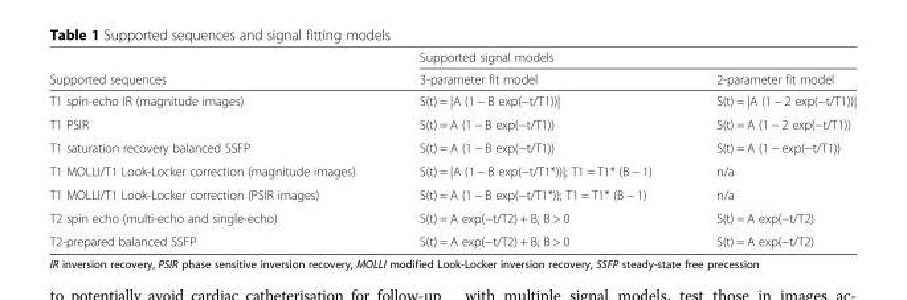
<table><thead><tr><td rowspan="2">Supported sequences</td><td colspan="2">Supported signal models</td></tr><tr><td>3-parameter fit model</td><td>2-parameter fit model</td></tr></thead><tbody><tr><td>T1 spin-echo IR (magnitude images)</td><td>S(t) = |A (1 − B exp(−t/T1))|</td><td>S(t) = |A (1 − 2 exp(−t/T1))|</td></tr><tr><td>T1 PSIR</td><td>S(t) = A (1 − B exp(−t/T1))</td><td>S(t) = A (1 − 2 exp(−t/T1))</td></tr><tr><td>T1 saturation recovery balanced SSFP</td><td>S(t) = A (1 − B exp(−t/T1))</td><td>S(t) = A (1 − exp(−t/T1))</td></tr><tr><td>T1 MOLLI/T1 Look-Locker correction (magnitude images)</td><td>S(t) = |A (1 − B exp(−t/T1*))|; T1 = T1* (B − 1)</td><td>n/a</td></tr><tr><td>T1 MOLLI/T1 Look-Locker correction (PSIR images)</td><td>S(t) = A (1 − B exp(−t/T1*)); T1 = T1* (B − 1)</td><td>n/a</td></tr><tr><td>T2 spin echo (multi-echo and single-echo)</td><td>S(t) = A exp(−t/T2) + B; B &gt; 0</td><td>S(t) = A exp(−t/T2)</td></tr><tr><td>T2-prepared balanced SSFP</td><td>S(t) = A exp(−t/T2) + B; B &gt; 0</td><td>S(t) = A exp(−t/T2)</td></tr></tbody></table>